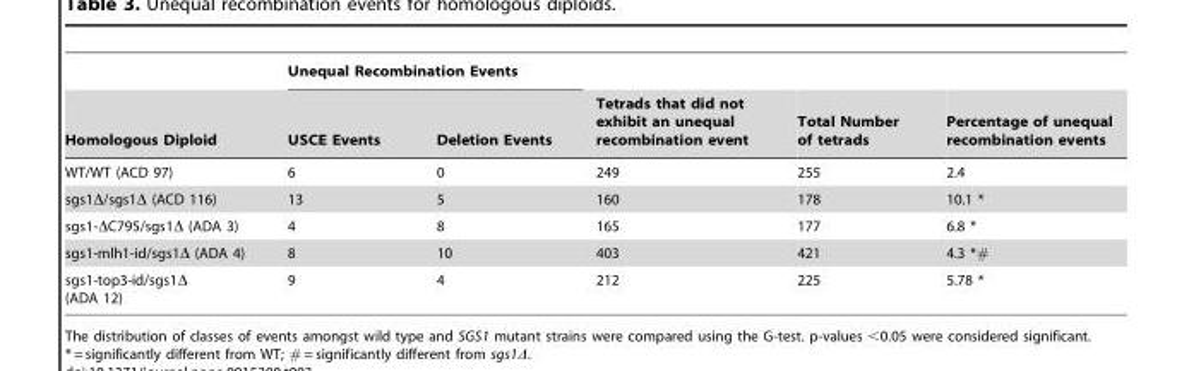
<table><thead><tr><td rowspan="2">Homologous Diploid</td><td colspan="2">Unequal Recombination Events</td><td rowspan="2">Tetrads that did not exhibit an unequal recombination event</td><td rowspan="2">Total Number of tetrads</td><td rowspan="2">Percentage of unequal recombination events</td></tr><tr><td>USCE Events</td><td>Deletion Events</td></tr></thead><tbody><tr><td>WT/WT (ACD 97)</td><td>6</td><td>0</td><td>249</td><td>255</td><td>2.4</td></tr><tr><td>sgs1Δ/sgs1Δ (ACD 116)</td><td>13</td><td>5</td><td>160</td><td>178</td><td>10.1 *</td></tr><tr><td>sgs1-ΔC795/sgs1Δ (ADA 3)</td><td>4</td><td>8</td><td>165</td><td>177</td><td>6.8 *</td></tr><tr><td>sgs1-mlh1-id/sgs1Δ (ADA 4)</td><td>8</td><td>10</td><td>403</td><td>421</td><td>4.3 *#</td></tr><tr><td>sgs1-top3-id/sgs1Δ (ADA 12)</td><td>9</td><td>4</td><td>212</td><td>225</td><td>5.78 *</td></tr></tbody></table>